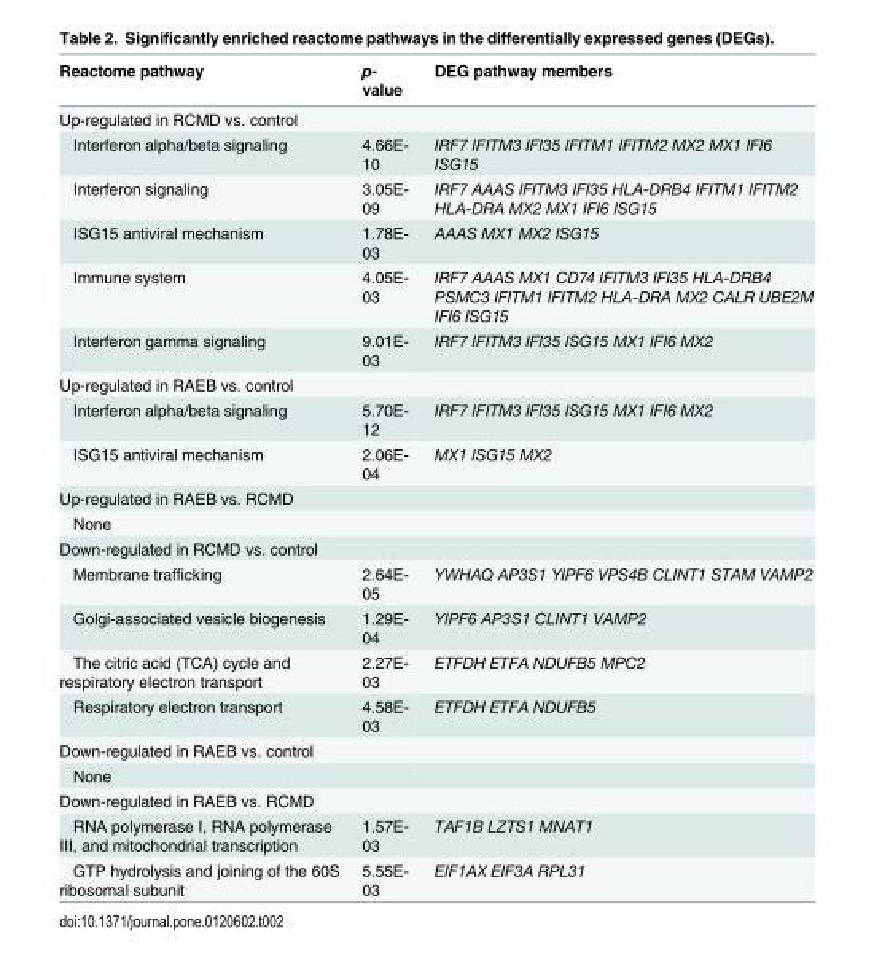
<table><thead><tr><td>Reactome pathway</td><td>p- value</td><td>DEG pathway members</td></tr></thead><tbody><tr><td colspan="3">Up-regulated in RCMD vs. control</td></tr><tr><td>Interferon alpha/beta signaling</td><td>4.66E- 10</td><td>IRF7 IFITM3 IFI35 IFITM1 IFITM2 MX2 MX1 IFI6 ISG15</td></tr><tr><td>Interferon signaling</td><td>3.05E- 09</td><td>IRF7 AAAS IFITM3 IFI35 HLA-DRB4 IFITM1 IFITM2 HLA-DRA MX2 MX1 IFI6 ISG15</td></tr><tr><td>ISG15 antiviral mechanism</td><td>1.78E- 03</td><td>AAAS MX1 MX2 ISG15</td></tr><tr><td>Immune system</td><td>4.05E- 03</td><td>IRF7 AAAS MX1 CD74 IFITM3 IFI35 HLA-DRB4 PSMC3 IFITM1 IFITM2 HLA-DRA MX2 CALR UBE2M IFI6 ISG15</td></tr><tr><td>Interferon gamma signaling</td><td>9.01E- 03</td><td>IRF7 IFITM3 IFI35 ISG15 MX1 IFI6 MX2</td></tr><tr><td colspan="3">Up-regulated in RAEB vs. control</td></tr><tr><td>Interferon alpha/beta signaling</td><td>5.70E- 12</td><td>IRF7 IFITM3 IFI35 ISG15 MX1 IFI6 MX2</td></tr><tr><td>ISG15 antiviral mechanism</td><td>2.06E- 04</td><td>MX1 ISG15 MX2</td></tr><tr><td colspan="3">Up-regulated in RAEB vs. RCMD</td></tr><tr><td colspan="3">None</td></tr><tr><td colspan="3">Down-regulated in RCMD vs. control</td></tr><tr><td>Membrane trafficking</td><td>2.64E- 05</td><td>YWHAQ AP3S1 YIPF6 VPS4B CLINT1 STAM VAMP2</td></tr><tr><td>Golgi-associated vesicle biogenesis</td><td>1.29E- 04</td><td>YIPF6 AP3S1 CLINT1 VAMP2</td></tr><tr><td>The citric acid (TCA) cycle and respiratory electron transport</td><td>2.27E- 03</td><td>ETFDH ETFA NDUFB5 MPC2</td></tr><tr><td>Respiratory electron transport</td><td>4.58E- 03</td><td>ETFDH ETFA NDUFB5</td></tr><tr><td colspan="3">Down-regulated in RAEB vs. control</td></tr><tr><td colspan="3">None</td></tr><tr><td colspan="3">Down-regulated in RAEB vs. RCMD</td></tr><tr><td>RNA polymerase I, RNA polymerase III, and mitochondrial transcription</td><td>1.57E- 03</td><td>TAF1B LZTS1 MNAT1</td></tr><tr><td>GTP hydrolysis and joining of the 60S ribosomal subunit</td><td>5.55E- 03</td><td>EIF1AX EIF3A RPL31</td></tr></tbody></table>